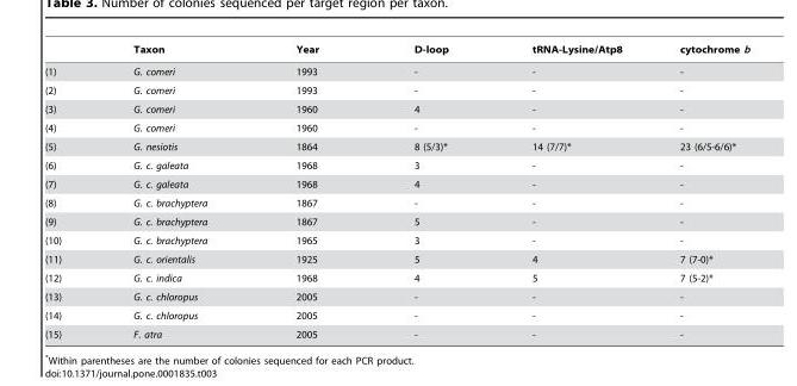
<table><thead><tr><td></td><td>Taxon</td><td>Year</td><td>D-loop</td><td>tRNA-Lysine/Atp8</td><td>cytochrome b</td></tr></thead><tbody><tr><td>(1)</td><td>G. comeri</td><td>1993</td><td>-</td><td>-</td><td>-</td></tr><tr><td>(2)</td><td>G. comeri</td><td>1993</td><td>-</td><td>-</td><td>-</td></tr><tr><td>(3)</td><td>G. comeri</td><td>1960</td><td>4</td><td>-</td><td>-</td></tr><tr><td>(4)</td><td>G. comeri</td><td>1960</td><td>-</td><td>-</td><td>-</td></tr><tr><td>(5)</td><td>G. nesiotis</td><td>1864</td><td>8 (5/3)*</td><td>14 (7/7)*</td><td>23 (6/5-6/6)*</td></tr><tr><td>(6)</td><td>G. c. galeata</td><td>1968</td><td>3</td><td>-</td><td>-</td></tr><tr><td>(7)</td><td>G. c. galeata</td><td>1968</td><td>4</td><td>-</td><td>-</td></tr><tr><td>(8)</td><td>G. c. brachyptera</td><td>1867</td><td>-</td><td>-</td><td>-</td></tr><tr><td>(9)</td><td>G. c. brachyptera</td><td>1867</td><td>5</td><td>-</td><td>-</td></tr><tr><td>(10)</td><td>G. c. brachyptera</td><td>1965</td><td>3</td><td>-</td><td>-</td></tr><tr><td>(11)</td><td>G. c. orientalis</td><td>1925</td><td>5</td><td>4</td><td>7 (7-0)*</td></tr><tr><td>(12)</td><td>G. c. indica</td><td>1968</td><td>4</td><td>5</td><td>7 (5-2)*</td></tr><tr><td>(13)</td><td>G. c. chloropus</td><td>2005</td><td>-</td><td>-</td><td>-</td></tr><tr><td>(14)</td><td>G. c. chloropus</td><td>2005</td><td>-</td><td>-</td><td>-</td></tr><tr><td>(15)</td><td>F. atra</td><td>2005</td><td>-</td><td>-</td><td>-</td></tr></tbody></table>